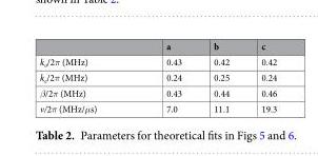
<table><thead><tr><td></td><td>a</td><td>b</td><td>c</td></tr></thead><tbody><tr><td>k<sub>o</sub>/2π (MHz)</td><td>0.43</td><td>0.42</td><td>0.42</td></tr><tr><td>k<sub>e</sub>/2π (MHz)</td><td>0.24</td><td>0.25</td><td>0.24</td></tr><tr><td>β/2π (MHz)</td><td>0.43</td><td>0.44</td><td>0.46</td></tr><tr><td>v/2π (MHz/μs)</td><td>7.0</td><td>11.1</td><td>19.3</td></tr></tbody></table>